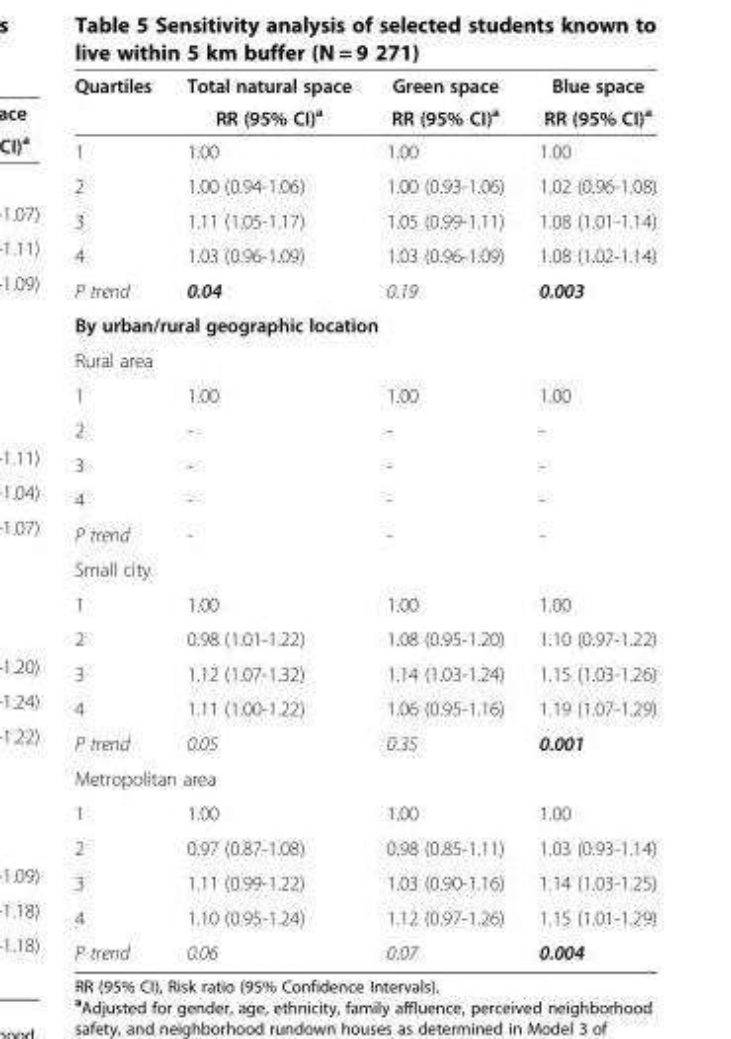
<table><thead><tr><td rowspan="2">Quartiles</td><td rowspan="2">Total natural space RR (95% CI)<sup>a</sup></td><td rowspan="2">Green space RR (95% CI)<sup>a</sup></td><td rowspan="2">Blue space RR (95% CI)<sup>a</sup></td></tr><tr></tr></thead><tbody><tr><td>1</td><td>1.00</td><td>1.00</td><td>1.00</td></tr><tr><td>2</td><td>1.00 (0.94-1.06)</td><td>1.00 (0.93-1.06)</td><td>1.02 (0.96-1.08)</td></tr><tr><td>3</td><td>1.11 (1.05-1.17)</td><td>1.05 (0.99-1.11)</td><td>1.08 (1.01-1.14)</td></tr><tr><td>4</td><td>1.03 (0.96-1.09)</td><td>1.03 (0.96-1.09)</td><td>1.08 (1.02-1.14)</td></tr><tr><td>P trend</td><td>0.04</td><td>0.19</td><td>0.003</td></tr><tr><td colspan="4">By urban/rural geographic location</td></tr><tr><td colspan="4">Rural area</td></tr><tr><td>1</td><td>1.00</td><td>1.00</td><td>1.00</td></tr><tr><td>2</td><td>-</td><td>-</td><td>-</td></tr><tr><td>3</td><td>-</td><td>-</td><td>-</td></tr><tr><td>4</td><td>-</td><td>-</td><td>-</td></tr><tr><td>P trend</td><td>-</td><td>-</td><td>-</td></tr><tr><td colspan="4">Small city</td></tr><tr><td>1</td><td>1.00</td><td>1.00</td><td>1.00</td></tr><tr><td>2</td><td>0.98 (1.01-1.22)</td><td>1.08 (0.95-1.20)</td><td>1.10 (0.97-1.22)</td></tr><tr><td>3</td><td>1.12 (1.07-1.32)</td><td>1.14 (1.03-1.24)</td><td>1.15 (1.03-1.26)</td></tr><tr><td>4</td><td>1.11 (1.00-1.22)</td><td>1.06 (0.95-1.16)</td><td>1.19 (1.07-1.29)</td></tr><tr><td>P trend</td><td>0.05</td><td>0.35</td><td>0.001</td></tr><tr><td colspan="4">Metropolitan area</td></tr><tr><td>1</td><td>1.00</td><td>1.00</td><td>1.00</td></tr><tr><td>2</td><td>0.97 (0.87-1.08)</td><td>0.98 (0.85-1.11)</td><td>1.03 (0.93-1.14)</td></tr><tr><td>3</td><td>1.11 (0.99-1.22)</td><td>1.03 (0.90-1.16)</td><td>1.14 (1.03-1.25)</td></tr><tr><td>4</td><td>1.10 (0.95-1.24)</td><td>1.12 (0.97-1.26)</td><td>1.15 (1.01-1.29)</td></tr><tr><td>P trend</td><td>0.06</td><td>0.07</td><td>0.004</td></tr></tbody></table>